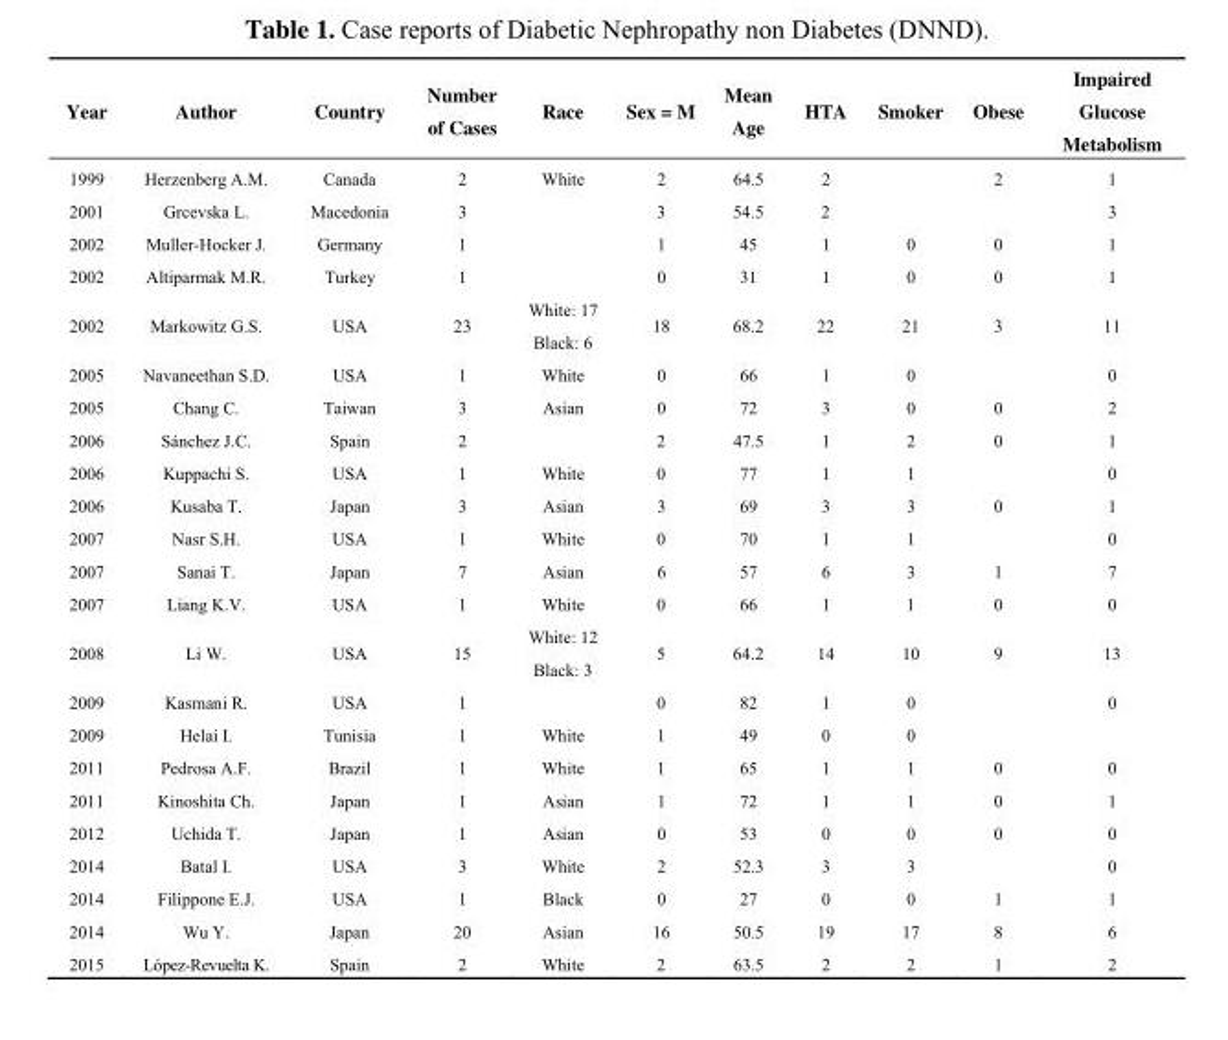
<table><thead><tr><td>Year</td><td>Author</td><td>Country</td><td>Number of Cases</td><td>Race</td><td>Sex = M</td><td>Mean Age</td><td>HTA</td><td>Smoker</td><td>Obese</td><td>Impaired Glucose Metabolism</td></tr></thead><tbody><tr><td>1999</td><td>Herzenberg A.M.</td><td>Canada</td><td>2</td><td>White</td><td>2</td><td>64.5</td><td>2</td><td></td><td>2</td><td>1</td></tr><tr><td>2001</td><td>Grcevska L.</td><td>Macedonia</td><td>3</td><td></td><td>3</td><td>54.5</td><td>2</td><td></td><td></td><td>3</td></tr><tr><td>2002</td><td>Muller-Hocker J.</td><td>Germany</td><td>1</td><td></td><td>1</td><td>45</td><td>1</td><td>0</td><td>0</td><td>1</td></tr><tr><td>2002</td><td>Altiparmak M.R.</td><td>Turkey</td><td>1</td><td></td><td>0</td><td>31</td><td>1</td><td>0</td><td>0</td><td>1</td></tr><tr><td>2002</td><td>Markowitz G.S.</td><td>USA</td><td>23</td><td>White: 17 Black: 6</td><td>18</td><td>68.2</td><td>22</td><td>21</td><td>3</td><td>11</td></tr><tr><td>2005</td><td>Navaneethan S.D.</td><td>USA</td><td>1</td><td>White</td><td>0</td><td>66</td><td>1</td><td>0</td><td></td><td>0</td></tr><tr><td>2005</td><td>Chang C.</td><td>Taiwan</td><td>3</td><td>Asian</td><td>0</td><td>72</td><td>3</td><td>0</td><td>0</td><td>2</td></tr><tr><td>2006</td><td>Sánchez J.C.</td><td>Spain</td><td>2</td><td></td><td>2</td><td>47.5</td><td>1</td><td>2</td><td>0</td><td>1</td></tr><tr><td>2006</td><td>Kuppachi S.</td><td>USA</td><td>1</td><td>White</td><td>0</td><td>77</td><td>1</td><td>1</td><td></td><td>0</td></tr><tr><td>2006</td><td>Kusaba T.</td><td>Japan</td><td>3</td><td>Asian</td><td>3</td><td>69</td><td>3</td><td>3</td><td>0</td><td>1</td></tr><tr><td>2007</td><td>Nasr S.H.</td><td>USA</td><td>1</td><td>White</td><td>0</td><td>70</td><td>1</td><td>1</td><td></td><td>0</td></tr><tr><td>2007</td><td>Sanai T.</td><td>Japan</td><td>7</td><td>Asian</td><td>6</td><td>57</td><td>6</td><td>3</td><td>1</td><td>7</td></tr><tr><td>2007</td><td>Liang K.V.</td><td>USA</td><td>1</td><td>White</td><td>0</td><td>66</td><td>1</td><td>1</td><td>0</td><td>0</td></tr><tr><td>2008</td><td>Li W.</td><td>USA</td><td>15</td><td>White: 12 Black: 3</td><td>5</td><td>64.2</td><td>14</td><td>10</td><td>9</td><td>13</td></tr><tr><td>2009</td><td>Kasmani R.</td><td>USA</td><td>1</td><td></td><td>0</td><td>82</td><td>1</td><td>0</td><td></td><td>0</td></tr><tr><td>2009</td><td>Helai I.</td><td>Tunisia</td><td>1</td><td>White</td><td>1</td><td>49</td><td>0</td><td>0</td><td></td><td></td></tr><tr><td>2011</td><td>Pedrosa A.F.</td><td>Brazil</td><td>1</td><td>White</td><td>1</td><td>65</td><td>1</td><td>1</td><td>0</td><td>0</td></tr><tr><td>2011</td><td>Kinoshita Ch.</td><td>Japan</td><td>1</td><td>Asian</td><td>1</td><td>72</td><td>1</td><td>1</td><td>0</td><td>1</td></tr><tr><td>2012</td><td>Uchida T.</td><td>Japan</td><td>1</td><td>Asian</td><td>0</td><td>53</td><td>0</td><td>0</td><td>0</td><td>0</td></tr><tr><td>2014</td><td>Batal I.</td><td>USA</td><td>3</td><td>White</td><td>2</td><td>52.3</td><td>3</td><td>3</td><td></td><td>0</td></tr><tr><td>2014</td><td>Filippone E.J.</td><td>USA</td><td>1</td><td>Black</td><td>0</td><td>27</td><td>0</td><td>0</td><td>1</td><td>1</td></tr><tr><td>2014</td><td>Wu Y.</td><td>Japan</td><td>20</td><td>Asian</td><td>16</td><td>50.5</td><td>19</td><td>17</td><td>8</td><td>6</td></tr><tr><td>2015</td><td>López-Revuelta K.</td><td>Spain</td><td>2</td><td>White</td><td>2</td><td>63.5</td><td>2</td><td>2</td><td>1</td><td>2</td></tr></tbody></table>